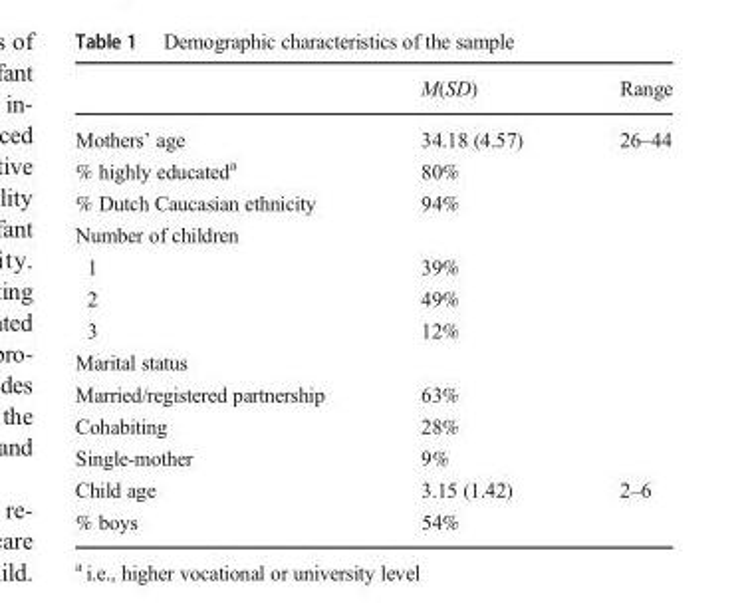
<table><thead><tr><td></td><td>M(SD)</td><td>Range</td></tr></thead><tbody><tr><td>Mothers’ age</td><td>34.18 (4.57)</td><td>26–44</td></tr><tr><td>% highly educated<sup>a</sup></td><td>80%</td><td></td></tr><tr><td>% Dutch Caucasian ethnicity</td><td>94%</td><td></td></tr><tr><td colspan="3">Number of children</td></tr><tr><td>1</td><td>39%</td><td></td></tr><tr><td>2</td><td>49%</td><td></td></tr><tr><td>3</td><td>12%</td><td></td></tr><tr><td colspan="3">Marital status</td></tr><tr><td>Married/registered partnership</td><td>63%</td><td></td></tr><tr><td>Cohabiting</td><td>28%</td><td></td></tr><tr><td>Single-mother</td><td>9%</td><td></td></tr><tr><td>Child age</td><td>3.15 (1.42)</td><td>2–6</td></tr><tr><td>% boys</td><td>54%</td><td></td></tr></tbody></table>